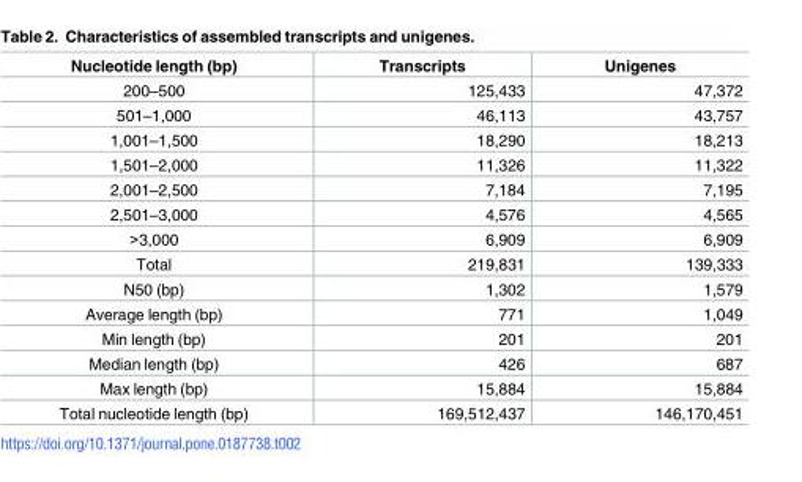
<table><thead><tr><td>Nucleotide length (bp)</td><td>Transcripts</td><td>Unigenes</td></tr></thead><tbody><tr><td>200–500</td><td>125,433</td><td>47,372</td></tr><tr><td>501–1,000</td><td>46,113</td><td>43,757</td></tr><tr><td>1,001–1,500</td><td>18,290</td><td>18,213</td></tr><tr><td>1,501–2,000</td><td>11,326</td><td>11,322</td></tr><tr><td>2,001–2,500</td><td>7,184</td><td>7,195</td></tr><tr><td>2,501–3,000</td><td>4,576</td><td>4,565</td></tr><tr><td>&gt;3,000</td><td>6,909</td><td>6,909</td></tr><tr><td>Total</td><td>219,831</td><td>139,333</td></tr><tr><td>N50 (bp)</td><td>1,302</td><td>1,579</td></tr><tr><td>Average length (bp)</td><td>771</td><td>1,049</td></tr><tr><td>Min length (bp)</td><td>201</td><td>201</td></tr><tr><td>Median length (bp)</td><td>426</td><td>687</td></tr><tr><td>Max length (bp)</td><td>15,884</td><td>15,884</td></tr><tr><td>Total nucleotide length (bp)</td><td>169,512,437</td><td>146,170,451</td></tr></tbody></table>